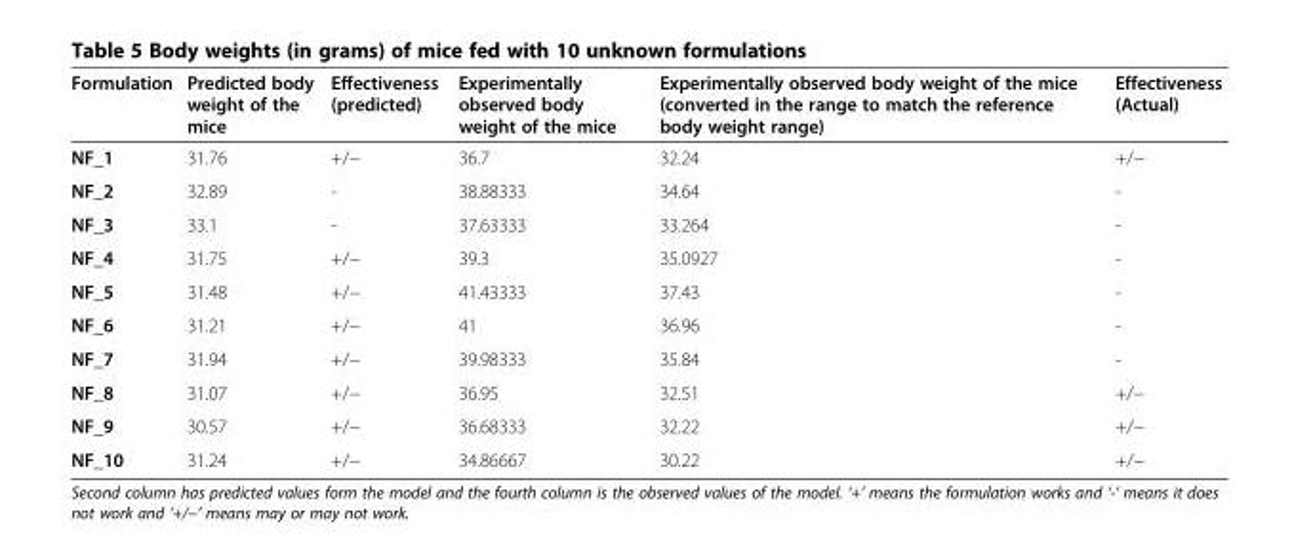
<table><thead><tr><td>Formulation</td><td>Predicted body weight of the mice</td><td>Effectiveness (predicted)</td><td>Experimentally observed body weight of the mice</td><td>Experimentally observed body weight of the mice (converted in the range to match the reference body weight range)</td><td>Effectiveness (Actual)</td></tr></thead><tbody><tr><td>NF_1</td><td>31.76</td><td>+/−</td><td>36.7</td><td>32.24</td><td>+/−</td></tr><tr><td>NF_2</td><td>32.89</td><td>-</td><td>38.88333</td><td>34.64</td><td>-</td></tr><tr><td>NF_3</td><td>33.1</td><td>-</td><td>37.63333</td><td>33.264</td><td>-</td></tr><tr><td>NF_4</td><td>31.75</td><td>+/−</td><td>39.3</td><td>35.0927</td><td>-</td></tr><tr><td>NF_5</td><td>31.48</td><td>+/−</td><td>41.43333</td><td>37.43</td><td>-</td></tr><tr><td>NF_6</td><td>31.21</td><td>+/−</td><td>41</td><td>36.96</td><td>-</td></tr><tr><td>NF_7</td><td>31.94</td><td>+/−</td><td>39.98333</td><td>35.84</td><td>-</td></tr><tr><td>NF_8</td><td>31.07</td><td>+/−</td><td>36.95</td><td>32.51</td><td>+/−</td></tr><tr><td>NF_9</td><td>30.57</td><td>+/−</td><td>36.68333</td><td>32.22</td><td>+/−</td></tr><tr><td>NF_10</td><td>31.24</td><td>+/−</td><td>34.86667</td><td>30.22</td><td>+/−</td></tr></tbody></table>